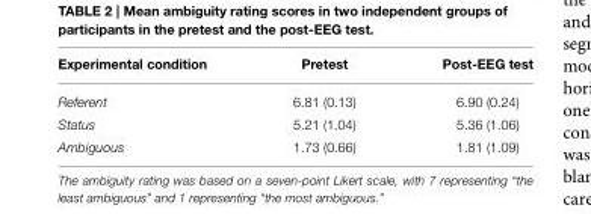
<table><thead><tr><td>Experimental condition</td><td>Pretest</td><td>Post-EEG test</td></tr></thead><tbody><tr><td>Referent</td><td>6.81 (0.13)</td><td>6.90 (0.24)</td></tr><tr><td>Status</td><td>5.21 (1.04)</td><td>5.36 (1.06)</td></tr><tr><td>Ambiguous</td><td>1.73 (0.66)</td><td>1.81 (1.09)</td></tr></tbody></table>